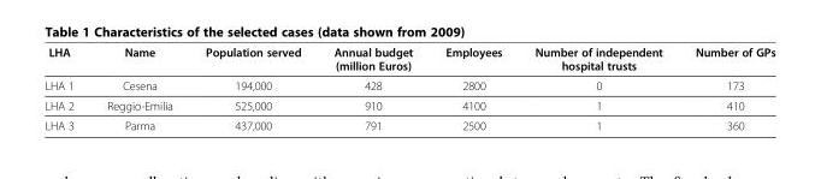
<table><thead><tr><td>LHA</td><td>Name</td><td>Population served</td><td>Annual budget (million Euros)</td><td>Employees</td><td>Number of independent hospital trusts</td><td>Number of GPs</td></tr></thead><tbody><tr><td>LHA 1</td><td>Cesena</td><td>194,000</td><td>428</td><td>2800</td><td>0</td><td>173</td></tr><tr><td>LHA 2</td><td>Reggio-Emilia</td><td>525,000</td><td>910</td><td>4100</td><td>1</td><td>410</td></tr><tr><td>LHA 3</td><td>Parma</td><td>437,000</td><td>791</td><td>2500</td><td>1</td><td>360</td></tr></tbody></table>